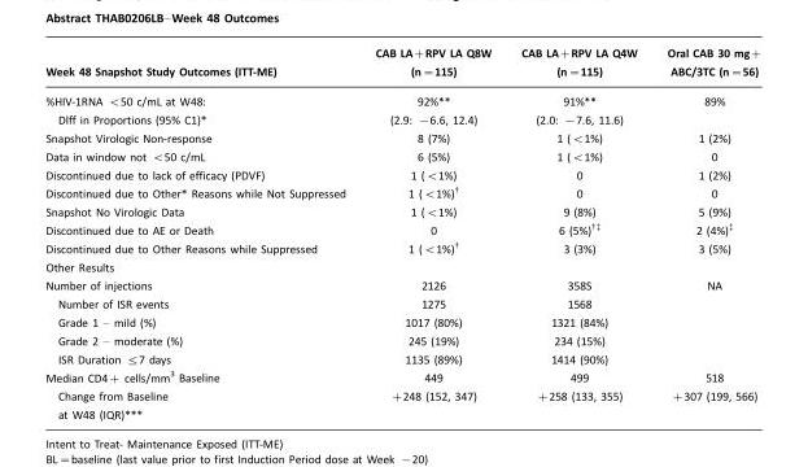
<table><thead><tr><td>Week 48 Snapshot Study Outcomes (ITT-ME)</td><td>CAB LA+RPV LA Q8W (n=115)</td><td>CAB LA+RPV LA Q4W (n=115)</td><td>Oral CAB 30 mg+ ABC/3TC (n=56)</td></tr></thead><tbody><tr><td>%HIV-1RNA &lt;50 c/mL at W48: Dlff in Proportions (95% C1)*</td><td>92%** (2.9: −6.6, 12.4)</td><td>91%** (2.0: −7.6, 11.6)</td><td>89%</td></tr><tr><td>Snapshot Virologic Non-response</td><td>8 (7%)</td><td>1 (&lt;1%)</td><td>1 (2%)</td></tr><tr><td>Data in window not &lt;50 c/mL</td><td>6 (5%)</td><td>1 (&lt;1%)</td><td>0</td></tr><tr><td>Discontinued due to lack of efficacy (PDVF)</td><td>1 (&lt;1%)</td><td>0</td><td>1 (2%)</td></tr><tr><td>Discontinued due to Other* Reasons while Not Suppressed</td><td>1 (&lt;1%)†</td><td>0</td><td>0</td></tr><tr><td>Snapshot No Virologic Data</td><td>1 (&lt;1%)</td><td>9 (8%)</td><td>5 (9%)</td></tr><tr><td>Discontinued due to AE or Death</td><td>0</td><td>6 (5%)†‡</td><td>2 (4%)‡</td></tr><tr><td>Discontinued due to Other Reasons while Suppressed</td><td>1 (&lt;1%)†</td><td>3 (3%)</td><td>3 (5%)</td></tr><tr><td colspan="4">Other Results</td></tr><tr><td>Number of injections Number of ISR events Grade 1 – mild (%) Grade 2 – moderate (%) ISR Duration ≤7 days</td><td>2126 1275 1017 (80%) 245 (19%) 1135 (89%)</td><td>358S 1568 1321 (84%) 234 (15%) 1414 (90%)</td><td>NA</td></tr><tr><td>Median CD4+ cells/mm3 Baseline Change from Baseline at W48 (IQR)***</td><td>449 +248 (152, 347)</td><td>499 +258 (133, 355)</td><td>518 +307 (199, 566)</td></tr></tbody></table>